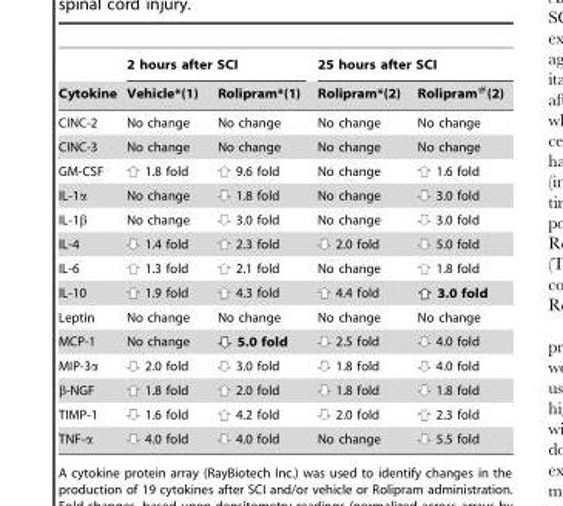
<table><thead><tr><td rowspan="2">Cytokine</td><td colspan="2">2 hours after SCI</td><td colspan="2">25 hours after SCI</td></tr><tr><td>Vehicle*(1)</td><td>Rolipram*(1)</td><td>Rolipram*(2)</td><td>Rolipram#(2)</td></tr></thead><tbody><tr><td>CINC-2</td><td>No change</td><td>No change</td><td>No change</td><td>No change</td></tr><tr><td>CINC-3</td><td>No change</td><td>No change</td><td>No change</td><td>No change</td></tr><tr><td>GM-CSF</td><td>1.8 fold</td><td>9.6 fold</td><td>No change</td><td>1.6 fold</td></tr><tr><td>IL-1α</td><td>No change</td><td>1.8 fold</td><td>No change</td><td>3.0 fold</td></tr><tr><td>IL-1β</td><td>No change</td><td>3.0 fold</td><td>No change</td><td>3.0 fold</td></tr><tr><td>IL-4</td><td>1.4 fold</td><td>2.3 fold</td><td>2.0 fold</td><td>5.0 fold</td></tr><tr><td>IL-6</td><td>1.3 fold</td><td>2.1 fold</td><td>No change</td><td>1.8 fold</td></tr><tr><td>IL-10</td><td>1.9 fold</td><td>4.3 fold</td><td>4.4 fold</td><td>3.0 fold</td></tr><tr><td>Leptin</td><td>No change</td><td>No change</td><td>No change</td><td>No change</td></tr><tr><td>MCP-1</td><td>No change</td><td>5.0 fold</td><td>2.5 fold</td><td>4.0 fold</td></tr><tr><td>MIP-3α</td><td>2.0 fold</td><td>3.0 fold</td><td>1.8 fold</td><td>4.0 fold</td></tr><tr><td>β-NGF</td><td>1.8 fold</td><td>2.0 fold</td><td>1.8 fold</td><td>1.8 fold</td></tr><tr><td>TIMP-1</td><td>1.6 fold</td><td>4.2 fold</td><td>2.0 fold</td><td>2.3 fold</td></tr><tr><td>TNF-α</td><td>4.0 fold</td><td>4.0 fold</td><td>No change</td><td>5.5 fold</td></tr></tbody></table>